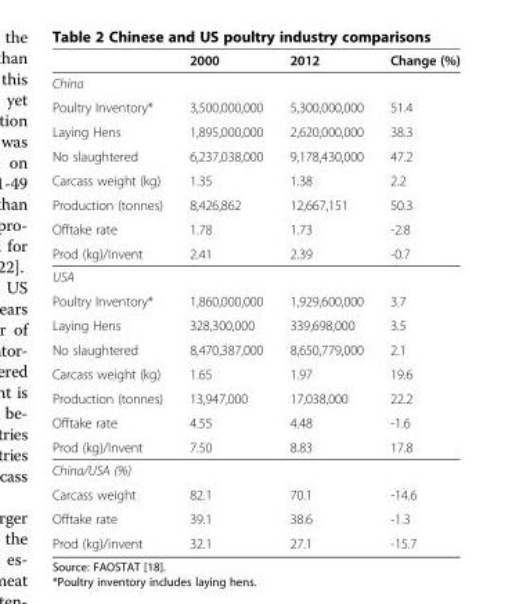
<table><thead><tr><td></td><td>2000</td><td>2012</td><td>Change (%)</td></tr></thead><tbody><tr><td colspan="4">China</td></tr><tr><td>Poultry Inventory*</td><td>3,500,000,000</td><td>5,300,000,000</td><td>51.4</td></tr><tr><td>Laying Hens</td><td>1,895,000,000</td><td>2,620,000,000</td><td>38.3</td></tr><tr><td>No slaughtered</td><td>6,237,038,000</td><td>9,178,430,000</td><td>47.2</td></tr><tr><td>Carcass weight (kg)</td><td>1.35</td><td>1.38</td><td>2.2</td></tr><tr><td>Production (tonnes)</td><td>8,426,862</td><td>12,667,151</td><td>50.3</td></tr><tr><td>Offtake rate</td><td>1.78</td><td>1.73</td><td>-2.8</td></tr><tr><td>Prod (kg)/Invent</td><td>2.41</td><td>2.39</td><td>-0.7</td></tr><tr><td colspan="4">USA</td></tr><tr><td>Poultry Inventory*</td><td>1,860,000,000</td><td>1,929,600,000</td><td>3.7</td></tr><tr><td>Laying Hens</td><td>328,300,000</td><td>339,698,000</td><td>3.5</td></tr><tr><td>No slaughtered</td><td>8,470,387,000</td><td>8,650,779,000</td><td>2.1</td></tr><tr><td>Carcass weight (kg)</td><td>1.65</td><td>1.97</td><td>19.6</td></tr><tr><td>Production (tonnes)</td><td>13,947,000</td><td>17,038,000</td><td>22.2</td></tr><tr><td>Offtake rate</td><td>4.55</td><td>4.48</td><td>-1.6</td></tr><tr><td>Prod (kg)/Invent</td><td>7.50</td><td>8.83</td><td>17.8</td></tr><tr><td colspan="4">China/USA (%)</td></tr><tr><td>Carcass weight</td><td>82.1</td><td>70.1</td><td>-14.6</td></tr><tr><td>Offtake rate</td><td>39.1</td><td>38.6</td><td>-1.3</td></tr><tr><td>Prod (kg)/invent</td><td>32.1</td><td>27.1</td><td>-15.7</td></tr></tbody></table>